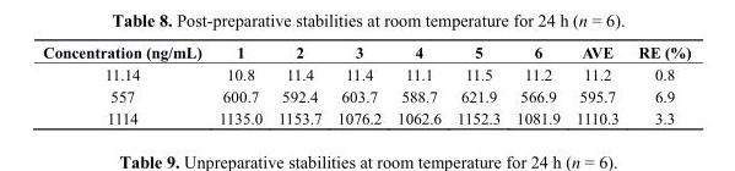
<table><thead><tr><td>Concentration (ng/mL)</td><td>1</td><td>2</td><td>3</td><td>4</td><td>5</td><td>6</td><td>AVE</td><td>RE (%)</td></tr></thead><tbody><tr><td>11.14</td><td>10.8</td><td>11.4</td><td>11.4</td><td>11.1</td><td>11.5</td><td>11.2</td><td>11.2</td><td>0.8</td></tr><tr><td>557</td><td>600.7</td><td>592.4</td><td>603.7</td><td>588.7</td><td>621.9</td><td>566.9</td><td>595.7</td><td>6.9</td></tr><tr><td>1114</td><td>1135.0</td><td>1153.7</td><td>1076.2</td><td>1062.6</td><td>1152.3</td><td>1081.9</td><td>1110.3</td><td>3.3</td></tr></tbody></table>